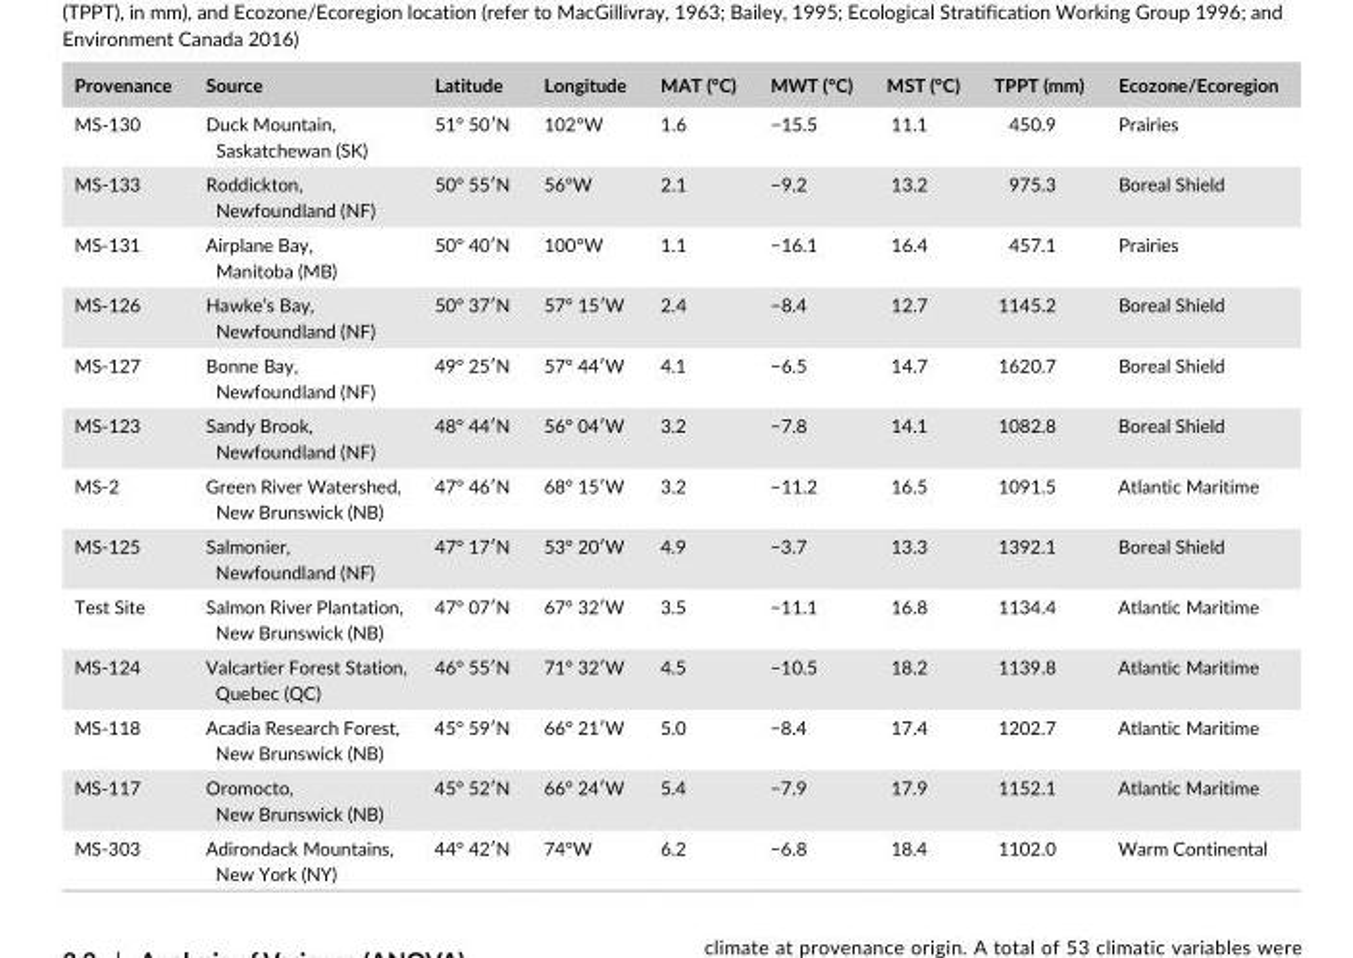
<table><thead><tr><td>Provenance</td><td>Source</td><td>Latitude</td><td>Longitude</td><td>MAT (°C)</td><td>MWT (°C)</td><td>MST (°C)</td><td>TPPT (mm)</td><td>Ecozone/Ecoregion</td></tr></thead><tbody><tr><td>MS- 130</td><td>Duck Mountain, Saskatchewan (SK)</td><td>51° 50′N</td><td>102°W</td><td>1.6</td><td>−15.5</td><td>11.1</td><td>450.9</td><td>Prairies</td></tr><tr><td>MS- 133</td><td>Roddickton, Newfoundland (NF)</td><td>50° 55′N</td><td>56°W</td><td>2.1</td><td>−9.2</td><td>13.2</td><td>975.3</td><td>Boreal Shield</td></tr><tr><td>MS- 131</td><td>Airplane Bay, Manitoba (MB)</td><td>50° 40′N</td><td>100°W</td><td>1.1</td><td>−16.1</td><td>16.4</td><td>457.1</td><td>Prairies</td></tr><tr><td>MS- 126</td><td>Hawke’s Bay, Newfoundland (NF)</td><td>50° 37′N</td><td>57° 15′W</td><td>2.4</td><td>−8.4</td><td>12.7</td><td>1145.2</td><td>Boreal Shield</td></tr><tr><td>MS- 127</td><td>Bonne Bay, Newfoundland (NF)</td><td>49° 25′N</td><td>57° 44′W</td><td>4.1</td><td>−6.5</td><td>14.7</td><td>1620.7</td><td>Boreal Shield</td></tr><tr><td>MS- 123</td><td>Sandy Brook, Newfoundland (NF)</td><td>48° 44′N</td><td>56° 04′W</td><td>3.2</td><td>−7.8</td><td>14.1</td><td>1082.8</td><td>Boreal Shield</td></tr><tr><td>MS- 2</td><td>Green River Watershed, New Brunswick (NB)</td><td>47° 46′N</td><td>68° 15′W</td><td>3.2</td><td>−11.2</td><td>16.5</td><td>1091.5</td><td>Atlantic Maritime</td></tr><tr><td>MS- 125</td><td>Salmonier, Newfoundland (NF)</td><td>47° 17′N</td><td>53° 20′W</td><td>4.9</td><td>−3.7</td><td>13.3</td><td>1392.1</td><td>Boreal Shield</td></tr><tr><td>Test Site</td><td>Salmon River Plantation, New Brunswick (NB)</td><td>47° 07′N</td><td>67° 32′W</td><td>3.5</td><td>−11.1</td><td>16.8</td><td>1134.4</td><td>Atlantic Maritime</td></tr><tr><td>MS- 124</td><td>Valcartier Forest Station, Quebec (QC)</td><td>46° 55′N</td><td>71° 32′W</td><td>4.5</td><td>−10.5</td><td>18.2</td><td>1139.8</td><td>Atlantic Maritime</td></tr><tr><td>MS- 118</td><td>Acadia Research Forest, New Brunswick (NB)</td><td>45° 59′N</td><td>66° 21′W</td><td>5.0</td><td>−8.4</td><td>17.4</td><td>1202.7</td><td>Atlantic Maritime</td></tr><tr><td>MS- 117</td><td>Oromocto, New Brunswick (NB)</td><td>45° 52′N</td><td>66° 24′W</td><td>5.4</td><td>−7.9</td><td>17.9</td><td>1152.1</td><td>Atlantic Maritime</td></tr><tr><td>MS- 303</td><td>Adirondack Mountains, New York (NY)</td><td>44° 42′N</td><td>74°W</td><td>6.2</td><td>−6.8</td><td>18.4</td><td>1102.0</td><td>Warm Continental</td></tr></tbody></table>